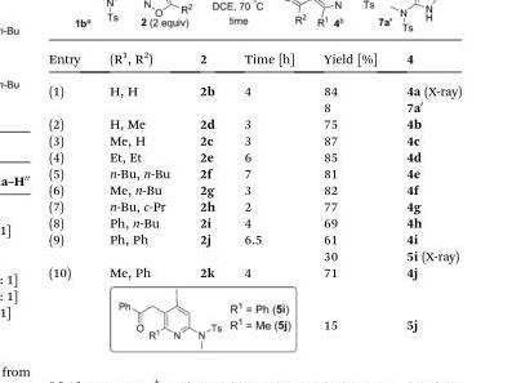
<table><thead><tr><td>Entry</td><td>(R<sup>1</sup>, R<sup>2</sup>)</td><td>2</td><td>Time [h]</td><td>Yield [%]</td><td>4</td></tr></thead><tbody><tr><td rowspan="2">(1)</td><td rowspan="2">H, H</td><td rowspan="2">2b</td><td rowspan="2">4</td><td>84</td><td>4a (X-ray)</td></tr><tr><td>8</td><td>7a′</td></tr><tr><td>(2)</td><td>H, Me</td><td>2d</td><td>3</td><td>75</td><td>4b</td></tr><tr><td>(3)</td><td>Me, H</td><td>2c</td><td>3</td><td>87</td><td>4c</td></tr><tr><td>(4)</td><td>Et, Et</td><td>2e</td><td>6</td><td>85</td><td>4d</td></tr><tr><td>(5)</td><td>n-Bu, n-Bu</td><td>2f</td><td>7</td><td>81</td><td>4e</td></tr><tr><td>(6)</td><td>Me, n-Bu</td><td>2g</td><td>3</td><td>82</td><td>4f</td></tr><tr><td>(7)</td><td>n-Bu, c-Pr</td><td>2h</td><td>2</td><td>77</td><td>4g</td></tr><tr><td>(8)</td><td>Ph, n-Bu</td><td>2i</td><td>4</td><td>69</td><td>4h</td></tr><tr><td rowspan="2">(9)</td><td rowspan="2">Ph, Ph</td><td rowspan="2">2j</td><td rowspan="2">6.5</td><td>61</td><td>4i</td></tr><tr><td>30</td><td>5i (X-ray)</td></tr><tr><td rowspan="2">(10)</td><td>Me, Ph</td><td>2k</td><td>4</td><td>71</td><td>4j</td></tr><tr><td colspan="3"></td><td>15</td><td>5j</td></tr></tbody></table>